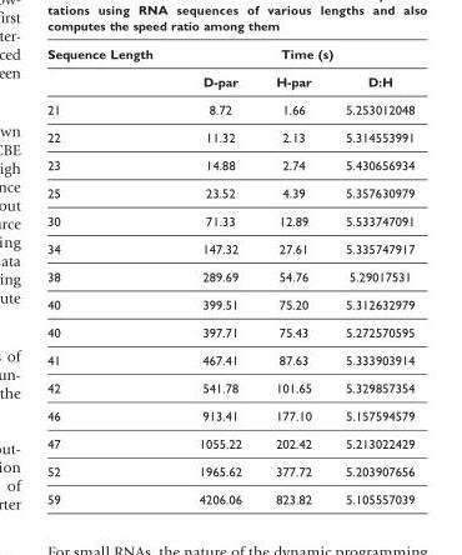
<table><thead><tr><td rowspan="2">Sequence Length</td><td colspan="3">Time (s)</td></tr><tr><td>D-par</td><td>H-par</td><td>D:H</td></tr></thead><tbody><tr><td>21</td><td>8.72</td><td>1.66</td><td>5.253012048</td></tr><tr><td>22</td><td>11.32</td><td>2.13</td><td>5.314553991</td></tr><tr><td>23</td><td>14.88</td><td>2.74</td><td>5.430656934</td></tr><tr><td>25</td><td>23.52</td><td>4.39</td><td>5.357630979</td></tr><tr><td>30</td><td>71.33</td><td>12.89</td><td>5.533747091</td></tr><tr><td>34</td><td>147.32</td><td>27.61</td><td>5.335747917</td></tr><tr><td>38</td><td>289.69</td><td>54.76</td><td>5.29017531</td></tr><tr><td>40</td><td>399.51</td><td>75.20</td><td>5.312632979</td></tr><tr><td>40</td><td>397.71</td><td>75.43</td><td>5.272570595</td></tr><tr><td>41</td><td>467.41</td><td>87.63</td><td>5.333903914</td></tr><tr><td>42</td><td>541.78</td><td>101.65</td><td>5.329857354</td></tr><tr><td>46</td><td>913.41</td><td>177.10</td><td>5.157594579</td></tr><tr><td>47</td><td>1055.22</td><td>202.42</td><td>5.213022429</td></tr><tr><td>52</td><td>1965.62</td><td>377.72</td><td>5.203907656</td></tr><tr><td>59</td><td>4206.06</td><td>823.82</td><td>5.105557039</td></tr></tbody></table>